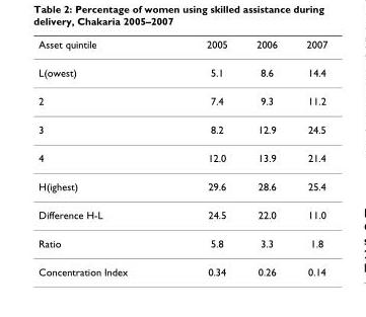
<table><thead><tr><td>Asset quintile</td><td>2005</td><td>2006</td><td>2007</td></tr></thead><tbody><tr><td>L(owest)</td><td>5.1</td><td>8.6</td><td>14.4</td></tr><tr><td>2</td><td>7.4</td><td>9.3</td><td>11.2</td></tr><tr><td>3</td><td>8.2</td><td>12.9</td><td>24.5</td></tr><tr><td>4</td><td>12.0</td><td>13.9</td><td>21.4</td></tr><tr><td>H(ighest)</td><td>29.6</td><td>28.6</td><td>25.4</td></tr><tr><td>Difference H-L</td><td>24.5</td><td>22.0</td><td>11.0</td></tr><tr><td>Ratio</td><td>5.8</td><td>3.3</td><td>1.8</td></tr><tr><td>Concentration Index</td><td>0.34</td><td>0.26</td><td>0.14</td></tr></tbody></table>